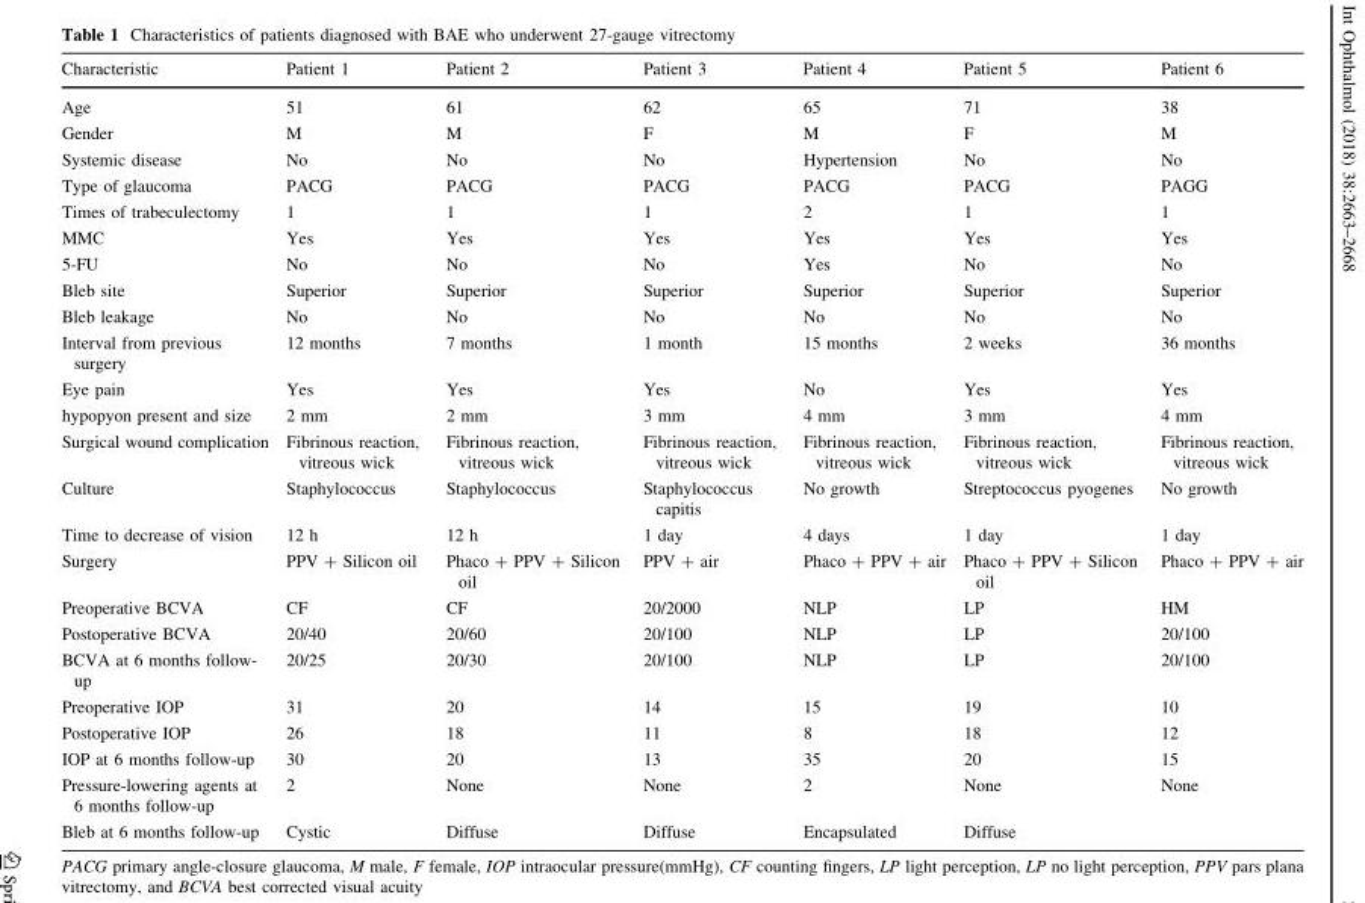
<table><thead><tr><td>Characteristic</td><td>Patient 1</td><td>Patient 2</td><td>Patient 3</td><td>Patient 4</td><td>Patient 5</td><td>Patient 6</td></tr></thead><tbody><tr><td>Age</td><td>51</td><td>61</td><td>62</td><td>65</td><td>71</td><td>38</td></tr><tr><td>Gender</td><td>M</td><td>M</td><td>F</td><td>M</td><td>F</td><td>M</td></tr><tr><td>Systemic disease</td><td>No</td><td>No</td><td>No</td><td>Hypertension</td><td>No</td><td>No</td></tr><tr><td>Type of glaucoma</td><td>PACG</td><td>PACG</td><td>PACG</td><td>PACG</td><td>PACG</td><td>PAGG</td></tr><tr><td>Times of trabeculectomy</td><td>1</td><td>1</td><td>1</td><td>2</td><td>1</td><td>1</td></tr><tr><td>MMC</td><td>Yes</td><td>Yes</td><td>Yes</td><td>Yes</td><td>Yes</td><td>Yes</td></tr><tr><td>5-FU</td><td>No</td><td>No</td><td>No</td><td>Yes</td><td>No</td><td>No</td></tr><tr><td>Bleb site</td><td>Superior</td><td>Superior</td><td>Superior</td><td>Superior</td><td>Superior</td><td>Superior</td></tr><tr><td>Bleb leakage</td><td>No</td><td>No</td><td>No</td><td>No</td><td>No</td><td>No</td></tr><tr><td>Interval from previous surgery</td><td>12 months</td><td>7 months</td><td>1 month</td><td>15 months</td><td>2 weeks</td><td>36 months</td></tr><tr><td>Eye pain</td><td>Yes</td><td>Yes</td><td>Yes</td><td>No</td><td>Yes</td><td>Yes</td></tr><tr><td>hypopyon present and size</td><td>2 mm</td><td>2 mm</td><td>3 mm</td><td>4 mm</td><td>3 mm</td><td>4 mm</td></tr><tr><td>Surgical wound complication</td><td>Fibrinous reaction, vitreous wick</td><td>Fibrinous reaction, vitreous wick</td><td>Fibrinous reaction, vitreous wick</td><td>Fibrinous reaction, vitreous wick</td><td>Fibrinous reaction, vitreous wick</td><td>Fibrinous reaction, vitreous wick</td></tr><tr><td>Culture</td><td>Staphylococcus</td><td>Staphylococcus</td><td>Staphylococcus capitis</td><td>No growth</td><td>Streptococcus pyogenes</td><td>No growth</td></tr><tr><td>Time to decrease of vision</td><td>12 h</td><td>12 h</td><td>1 day</td><td>4 days</td><td>1 day</td><td>1 day</td></tr><tr><td>Surgery</td><td>PPV + Silicon oil</td><td>Phaco + PPV + Silicon oil</td><td>PPV + air</td><td>Phaco + PPV + air</td><td>Phaco + PPV + Silicon oil</td><td>Phaco + PPV + air</td></tr><tr><td>Preoperative BCVA</td><td>CF</td><td>CF</td><td>20/2000</td><td>NLP</td><td>LP</td><td>HM</td></tr><tr><td>Postoperative BCVA</td><td>20/40</td><td>20/60</td><td>20/100</td><td>NLP</td><td>LP</td><td>20/100</td></tr><tr><td>BCVA at 6 months follow- up</td><td>20/25</td><td>20/30</td><td>20/100</td><td>NLP</td><td>LP</td><td>20/100</td></tr><tr><td>Preoperative IOP</td><td>31</td><td>20</td><td>14</td><td>15</td><td>19</td><td>10</td></tr><tr><td>Postoperative IOP</td><td>26</td><td>18</td><td>11</td><td>8</td><td>18</td><td>12</td></tr><tr><td>IOP at 6 months follow-up</td><td>30</td><td>20</td><td>13</td><td>35</td><td>20</td><td>15</td></tr><tr><td>Pressure-lowering agents at 6 months follow-up</td><td>2</td><td>None</td><td>None</td><td>2</td><td>None</td><td>None</td></tr><tr><td>Bleb at 6 months follow-up</td><td>Cystic</td><td>Diffuse</td><td>Diffuse</td><td>Encapsulated</td><td>Diffuse</td><td></td></tr></tbody></table>